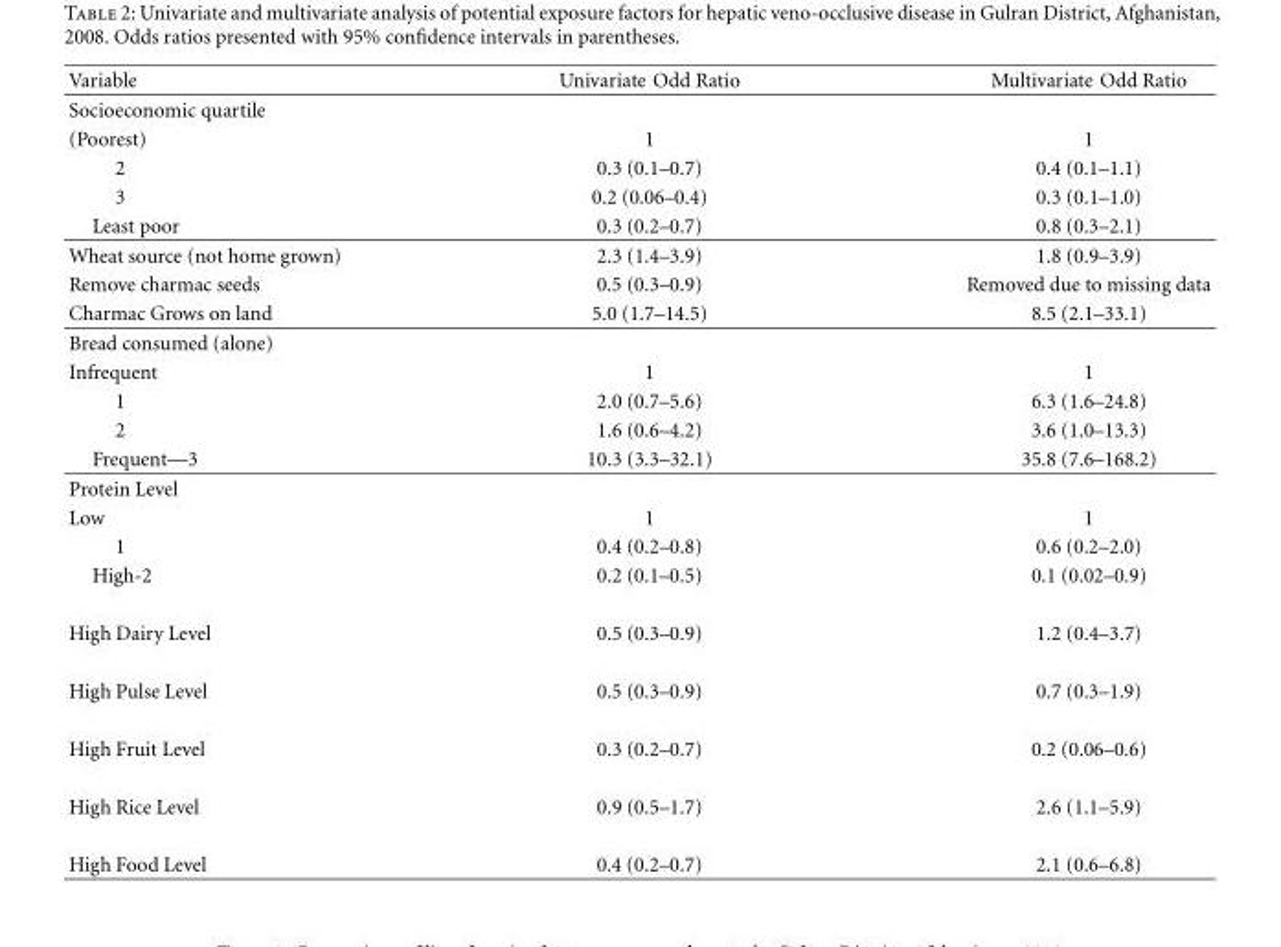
<table><thead><tr><td>Variable</td><td>Univariate Odd Ratio</td><td>Multivariate Odd Ratio</td></tr></thead><tbody><tr><td colspan="3">Socioeconomic quartile</td></tr><tr><td>(Poorest)</td><td>1</td><td>1</td></tr><tr><td>2</td><td>0.3 (0.1–0.7)</td><td>0.4 (0.1–1.1)</td></tr><tr><td>3</td><td>0.2 (0.06–0.4)</td><td>0.3 (0.1–1.0)</td></tr><tr><td>Least poor</td><td>0.3 (0.2–0.7)</td><td>0.8 (0.3–2.1)</td></tr><tr><td>Wheat source (not home grown)</td><td>2.3 (1.4–3.9)</td><td>1.8 (0.9–3.9)</td></tr><tr><td>Remove charmac seeds</td><td>0.5 (0.3–0.9)</td><td>Removed due to missing data</td></tr><tr><td>Charmac Grows on land</td><td>5.0 (1.7–14.5)</td><td>8.5 (2.1–33.1)</td></tr><tr><td colspan="3">Bread consumed (alone)</td></tr><tr><td>Infrequent</td><td>1</td><td>1</td></tr><tr><td>1</td><td>2.0 (0.7–5.6)</td><td>6.3 (1.6–24.8)</td></tr><tr><td>2</td><td>1.6 (0.6–4.2)</td><td>3.6 (1.0–13.3)</td></tr><tr><td>Frequent—3</td><td>10.3 (3.3–32.1)</td><td>35.8 (7.6–168.2)</td></tr><tr><td colspan="3">Protein Level</td></tr><tr><td>Low</td><td>1</td><td>1</td></tr><tr><td>1</td><td>0.4 (0.2–0.8)</td><td>0.6 (0.2–2.0)</td></tr><tr><td>High-2</td><td>0.2 (0.1–0.5)</td><td>0.1 (0.02–0.9)</td></tr><tr><td>High Dairy Level</td><td>0.5 (0.3–0.9)</td><td>1.2 (0.4–3.7)</td></tr><tr><td>High Pulse Level</td><td>0.5 (0.3–0.9)</td><td>0.7 (0.3–1.9)</td></tr><tr><td>High Fruit Level</td><td>0.3 (0.2–0.7)</td><td>0.2 (0.06–0.6)</td></tr><tr><td>High Rice Level</td><td>0.9 (0.5–1.7)</td><td>2.6 (1.1–5.9)</td></tr><tr><td>High Food Level</td><td>0.4 (0.2–0.7)</td><td>2.1 (0.6–6.8)</td></tr></tbody></table>